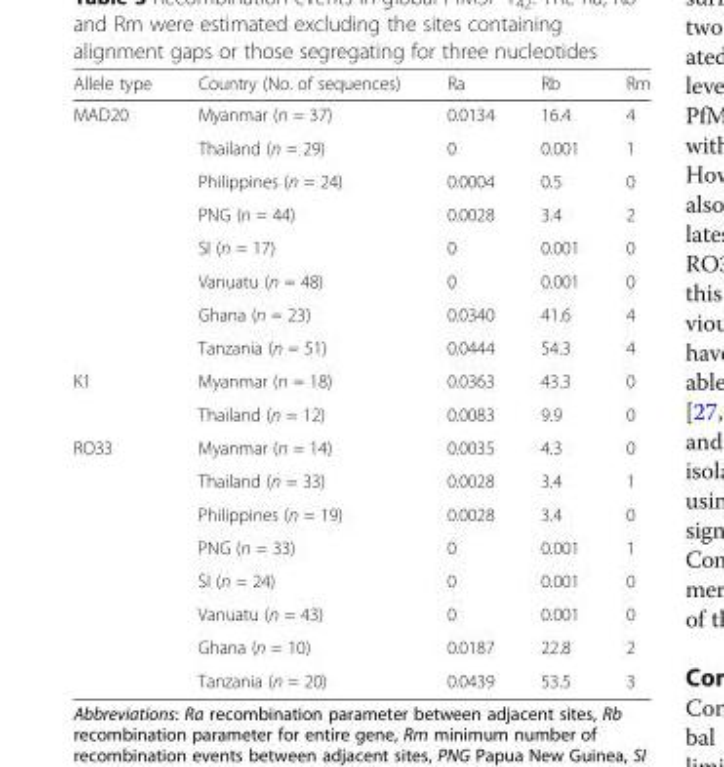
<table><thead><tr><td>Allele type</td><td>Country (No. of sequences)</td><td>Ra</td><td>Rb</td><td>Rm</td></tr></thead><tbody><tr><td rowspan="8">MAD20</td><td>Myanmar (n = 37)</td><td>0.0134</td><td>16.4</td><td>4</td></tr><tr><td>Thailand (n = 29)</td><td>0</td><td>0.001</td><td>1</td></tr><tr><td>Philippines (n = 24)</td><td>0.0004</td><td>0.5</td><td>0</td></tr><tr><td>PNG (n = 44)</td><td>0.0028</td><td>3.4</td><td>2</td></tr><tr><td>SI (n = 17)</td><td>0</td><td>0.001</td><td>0</td></tr><tr><td>Vanuatu (n = 48)</td><td>0</td><td>0.001</td><td>0</td></tr><tr><td>Ghana (n = 23)</td><td>0.0340</td><td>41.6</td><td>4</td></tr><tr><td>Tanzania (n = 51)</td><td>0.0444</td><td>54.3</td><td>4</td></tr><tr><td rowspan="2">K1</td><td>Myanmar (n = 18)</td><td>0.0363</td><td>43.3</td><td>0</td></tr><tr><td>Thailand (n = 12)</td><td>0.0083</td><td>9.9</td><td>0</td></tr><tr><td rowspan="8">RO33</td><td>Myanmar (n = 14)</td><td>0.0035</td><td>4.3</td><td>0</td></tr><tr><td>Thailand (n = 33)</td><td>0.0028</td><td>3.4</td><td>1</td></tr><tr><td>Philippines (n = 19)</td><td>0.0028</td><td>3.4</td><td>0</td></tr><tr><td>PNG (n = 33)</td><td>0</td><td>0.001</td><td>1</td></tr><tr><td>SI (n = 24)</td><td>0</td><td>0.001</td><td>0</td></tr><tr><td>Vanuatu (n = 43)</td><td>0</td><td>0.001</td><td>0</td></tr><tr><td>Ghana (n = 10)</td><td>0.0187</td><td>22.8</td><td>2</td></tr><tr><td>Tanzania (n = 20)</td><td>0.0439</td><td>53.5</td><td>3</td></tr></tbody></table>